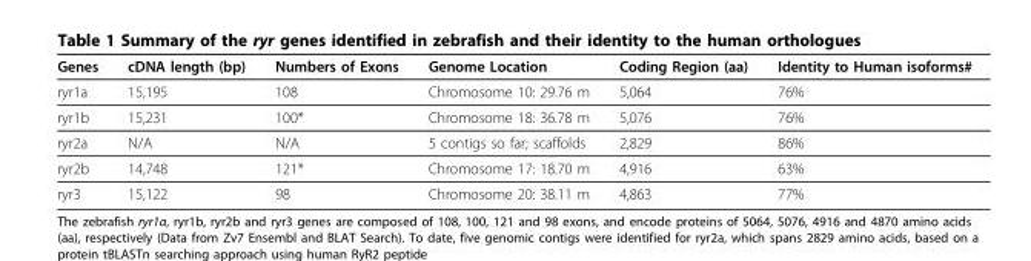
<table><thead><tr><td>Genes</td><td>cDNA length (bp)</td><td>Numbers of Exons</td><td>Genome Location</td><td>Coding Region (aa)</td><td>Identity to Human isoforms#</td></tr></thead><tbody><tr><td>ryr1a</td><td>15,195</td><td>108</td><td>Chromosome 10: 29.76 m</td><td>5,064</td><td>76%</td></tr><tr><td>ryr1b</td><td>15,231</td><td>100*</td><td>Chromosome 18: 36.78 m</td><td>5,076</td><td>76%</td></tr><tr><td>ryr2a</td><td>N/A</td><td>N/A</td><td>5 contigs so far; scaffolds</td><td>2,829</td><td>86%</td></tr><tr><td>ryr2b</td><td>14,748</td><td>121*</td><td>Chromosome 17: 18.70 m</td><td>4,916</td><td>63%</td></tr><tr><td>ryr3</td><td>15,122</td><td>98</td><td>Chromosome 20: 38.11 m</td><td>4,863</td><td>77%</td></tr></tbody></table>